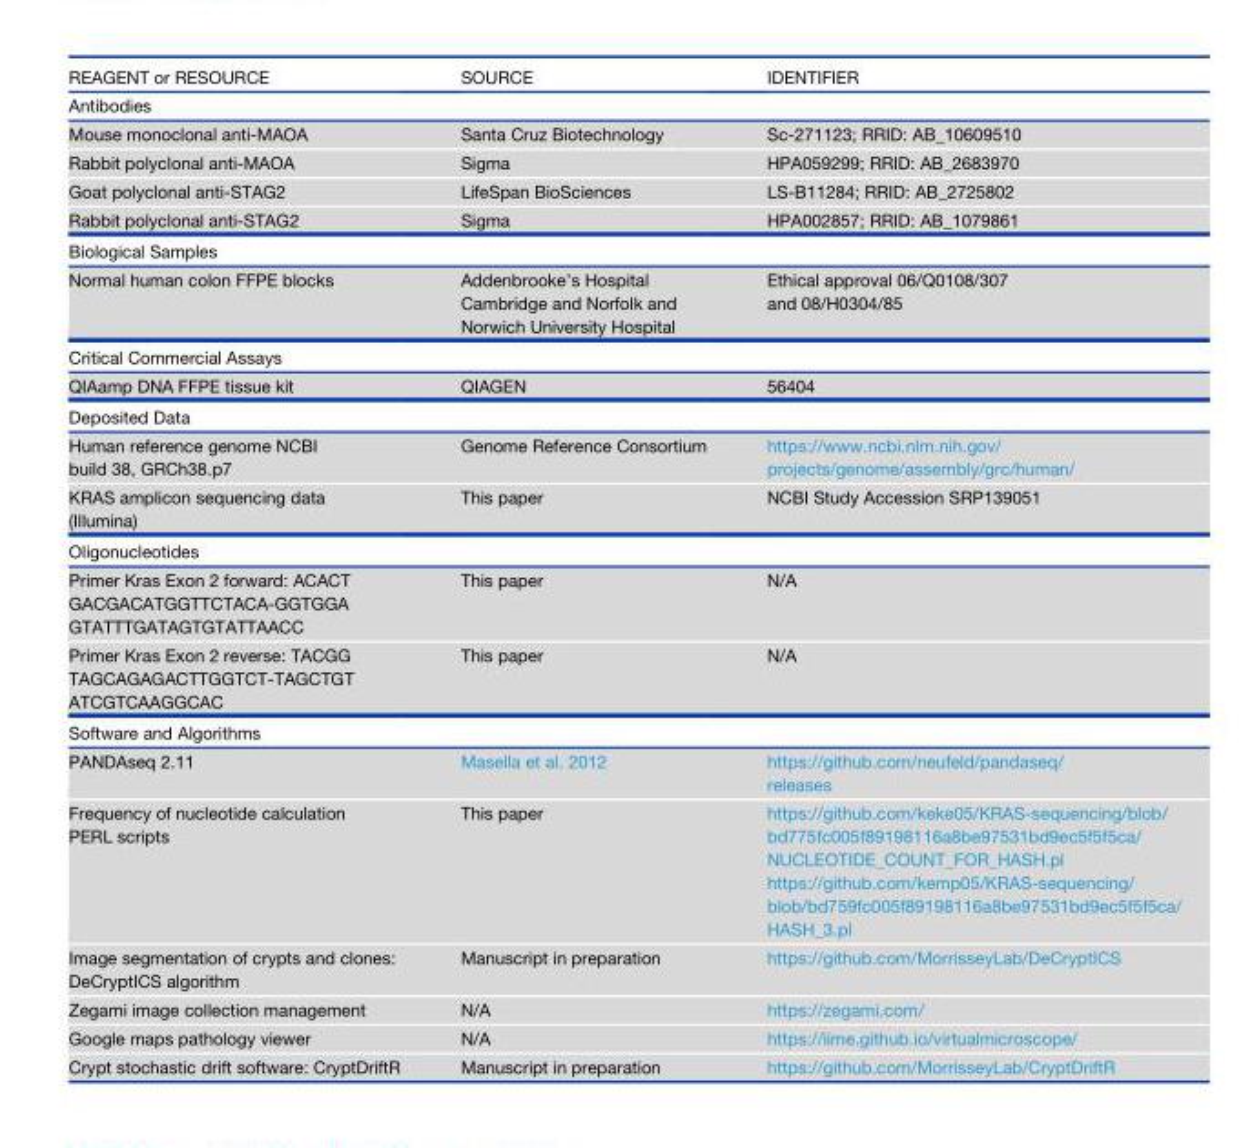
<table><thead><tr><td>REAGENT or RESOURCE</td><td>SOURCE</td><td>IDENTIFIER</td></tr></thead><tbody><tr><td colspan="3">Antibodies</td></tr><tr><td>Mouse monoclonal anti-MAOA</td><td>Santa Cruz Biotechnology</td><td>Sc-271123; RRID: AB_10609510</td></tr><tr><td>Rabbit polyclonal anti-MAOA</td><td>Sigma</td><td>HPA059299; RRID: AB_2683970</td></tr><tr><td>Goat polyclonal anti-STAG2</td><td>LifeSpan BioSciences</td><td>LS-B11284; RRID: AB_2725802</td></tr><tr><td>Rabbit polyclonal anti-STAG2</td><td>Sigma</td><td>HPA002857; RRID: AB_1079861</td></tr><tr><td colspan="3">Biological Samples</td></tr><tr><td>Normal human colon FFPE blocks</td><td>Addenbrooke’s Hospital Cambridge and Norfolk and Norwich University Hospital</td><td>Ethical approval 06/Q0108/307 and 08/H0304/85</td></tr><tr><td colspan="3">Critical Commercial Assays</td></tr><tr><td>QIAamp DNA FFPE tissue kit</td><td>QIAGEN</td><td>56404</td></tr><tr><td colspan="3">Deposited Data</td></tr><tr><td>Human reference genome NCBI build 38, GRCh38.p7</td><td>Genome Reference Consortium</td><td>https://www.ncbi.nlm.nih.gov/ projects/genome/assembly/grc/human/</td></tr><tr><td>KRAS amplicon sequencing data (Illumina)</td><td>This paper</td><td>NCBI Study Accession SRP139051</td></tr><tr><td colspan="3">Oligonucleotides</td></tr><tr><td>Primer Kras Exon 2 forward: ACACT GACGACATGGTTCTACA-GGTGGA GTATTTGATAGTGTATTAACC</td><td>This paper</td><td>N/A</td></tr><tr><td>Primer Kras Exon 2 reverse: TACGG TAGCAGAGACTTGGTCT-TAGCTGT ATCGTCAAGGCAC</td><td>This paper</td><td>N/A</td></tr><tr><td colspan="3">Software and Algorithms</td></tr><tr><td>PANDAseq 2.11</td><td>Masella et al. 2012</td><td>https://github.com/neufeld/pandaseq/ releases</td></tr><tr><td>Frequency of nucleotide calculation PERL scripts</td><td>This paper</td><td>https://github.com/keke05/KRAS-sequencing/blob/ bd775fc005f89198116a8be97531bd9ec5f5f5ca/ NUCLEOTIDE_COUNT_FOR_HASH.pl https://github.com/kemp05/KRAS-sequencing/ blob/bd759fc005f89198116a8be97531bd9ec5f5f5ca/ HASH_3.pl</td></tr><tr><td>Image segmentation of crypts and clones: DeCryptICS algorithm</td><td>Manuscript in preparation</td><td>https://github.com/MorrisseyLab/DeCryptICS</td></tr><tr><td>Zegami image collection management</td><td>N/A</td><td>https://zegami.com/</td></tr><tr><td>Google maps pathology viewer</td><td>N/A</td><td>https://iime.github.io/virtualmicroscope/</td></tr><tr><td>Crypt stochastic drift software: CryptDriftR</td><td>Manuscript in preparation</td><td>https://github.com/MorrisseyLab/CryptDriftR</td></tr></tbody></table>